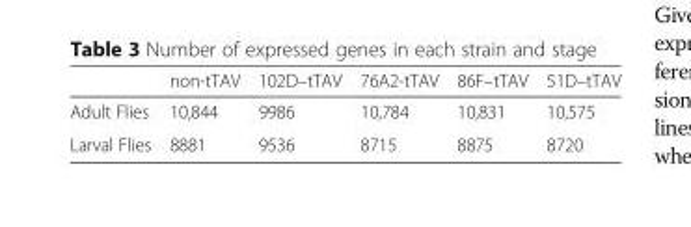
<table><thead><tr><td></td><td>non-tTAV</td><td>102D–tTAV</td><td>76A2-tTAV</td><td>86F–tTAV</td><td>51D–tTAV</td></tr></thead><tbody><tr><td>Adult Flies</td><td>10,844</td><td>9986</td><td>10,784</td><td>10,831</td><td>10,575</td></tr><tr><td>Larval Flies</td><td>8881</td><td>9536</td><td>8715</td><td>8875</td><td>8720</td></tr></tbody></table>